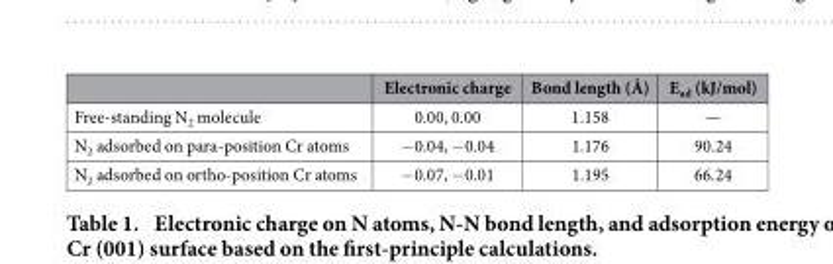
<table><thead><tr><td></td><td>Electronic charge</td><td>Bond length (Å)</td><td>E<sub>ad</sub> (kJ/mol)</td></tr></thead><tbody><tr><td>Free-standing N<sub>2</sub> molecule</td><td>0.00, 0.00</td><td>1.158</td><td>—</td></tr><tr><td>N<sub>2</sub> adsorbed on para-position Cr atoms</td><td>− 0.04, − 0.04</td><td>1.176</td><td>90.24</td></tr><tr><td>N<sub>2</sub> adsorbed on ortho-position Cr atoms</td><td>− 0.07, − 0.01</td><td>1.195</td><td>66.24</td></tr></tbody></table>